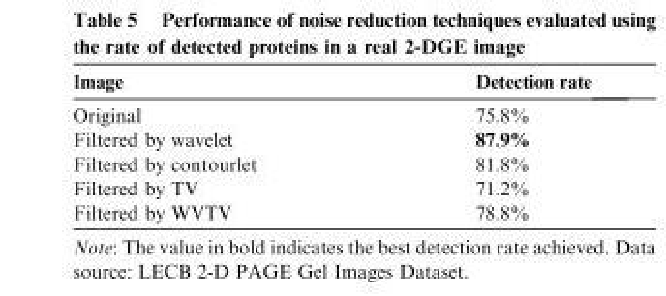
<table><thead><tr><td>Image</td><td>Detection rate</td></tr></thead><tbody><tr><td>Original</td><td>75.8%</td></tr><tr><td>Filtered by wavelet</td><td>87.9%</td></tr><tr><td>Filtered by contourlet</td><td>81.8%</td></tr><tr><td>Filtered by TV</td><td>71.2%</td></tr><tr><td>Filtered by WVTV</td><td>78.8%</td></tr></tbody></table>